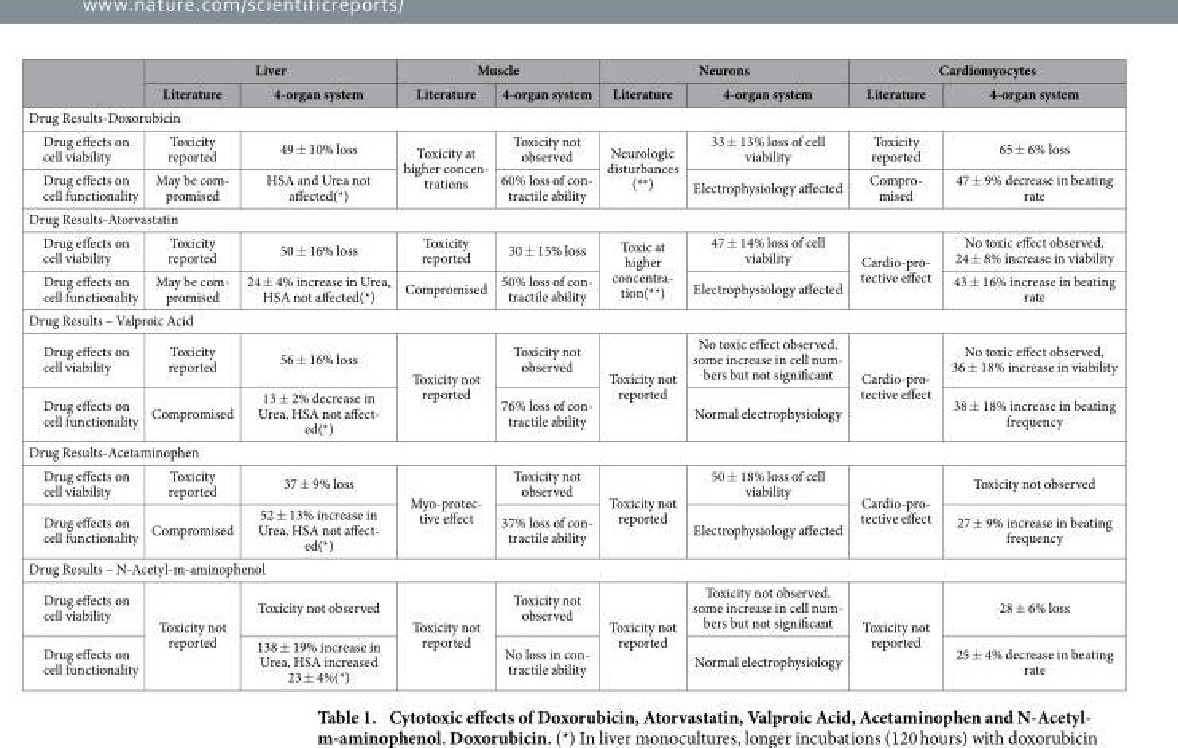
<table><thead><tr><td rowspan="2"></td><td colspan="2">Liver</td><td colspan="2">Muscle</td><td colspan="2">Neurons</td><td colspan="2">Cardiomyocytes</td></tr><tr><td>Literature</td><td>4-organ system</td><td>Literature</td><td>4-organ system</td><td>Literature</td><td>4-organ system</td><td>Literature</td><td>4-organ system</td></tr></thead><tbody><tr><td colspan="9">Drug Results-Doxorubicin</td></tr><tr><td>Drug effects on cell viability</td><td>Toxicity reported</td><td>49 ± 10% loss</td><td rowspan="2">Toxicity at higher concen- trations</td><td>Toxicity not observed</td><td rowspan="2">Neurologic disturbances (**)</td><td>33 ± 13% loss of cell viability</td><td>Toxicity reported</td><td>65 ± 6% loss</td></tr><tr><td>Drug effects on cell functionality</td><td>May be com- promised</td><td>HSA and Urea not affected(*)</td><td>60% loss of con- tractile ability</td><td>Electrophysiology affected</td><td>Compro- mised</td><td>47 ± 9% decrease in beating rate</td></tr><tr><td colspan="9">Drug Results-Atorvastatin</td></tr><tr><td>Drug effects on cell viability</td><td>Toxicity reported</td><td>50 ± 16% loss</td><td>Toxicity reported</td><td>30 ± 15% loss</td><td rowspan="2">Toxic at higher concentra- tion(**)</td><td>47 ± 14% loss of cell viability</td><td rowspan="2">Cardio-pro- tective effect</td><td>No toxic effect observed, 24 ± 8% increase in viability</td></tr><tr><td>Drug effects on cell functionality</td><td>May be com- promised</td><td>24 ± 4% increase in Urea, HSA not affected(*)</td><td>Compromised</td><td>50% loss of con- tractile ability</td><td>Electrophysiology affected</td><td>43 ± 16% increase in beating rate</td></tr><tr><td colspan="9">Drug Results – Valproic Acid</td></tr><tr><td>Drug effects on cell viability</td><td>Toxicity reported</td><td>56 ± 16% loss</td><td rowspan="2">Toxicity not reported</td><td>Toxicity not observed</td><td rowspan="2">Toxicity not reported</td><td>No toxic effect observed, some increase in cell num- bers but not significant</td><td rowspan="2">Cardio-pro- tective effect</td><td>No toxic effect observed, 36 ± 18% increase in viability</td></tr><tr><td>Drug effects on cell functionality</td><td>Compromised</td><td>13 ± 2% decrease in Urea, HSA not affect- ed(*)</td><td>76% loss of con- tractile ability</td><td>Normal electrophysiology</td><td>38 ± 18% increase in beating frequency</td></tr><tr><td colspan="9">Drug Results-Acetaminophen</td></tr><tr><td>Drug effects on cell viability</td><td>Toxicity reported</td><td>37 ± 9% loss</td><td rowspan="2">Myo-protec- tive effect</td><td>Toxicity not observed</td><td rowspan="2">Toxicity not reported</td><td>50 ± 18% loss of cell viability</td><td rowspan="2">Cardio-pro- tective effect</td><td>Toxicity not observed</td></tr><tr><td>Drug effects on cell functionality</td><td>Compromised</td><td>52 ± 13% increase in Urea, HSA not affect- ed(*)</td><td>37% loss of con- tractile ability</td><td>Electrophysiology affected</td><td>27 ± 9% increase in beating frequency</td></tr><tr><td colspan="9">Drug Results – N-Acetyl-m-aminophenol</td></tr><tr><td>Drug effects on cell viability</td><td rowspan="2">Toxicity not reported</td><td>Toxicity not observed</td><td rowspan="2">Toxicity not reported</td><td>Toxicity not observed</td><td rowspan="2">Toxicity not reported</td><td>Toxicity not observed, some increase in cell num- bers but not significant</td><td rowspan="2">Toxicity not reported</td><td>28 ± 6% loss</td></tr><tr><td>Drug effects on cell functionality</td><td>138 ± 19% increase in Urea, HSA increased 23 ± 4%(*)</td><td>No loss in con- tractile ability</td><td>Normal electrophysiology</td><td>25 ± 4% decrease in beating rate</td></tr></tbody></table>